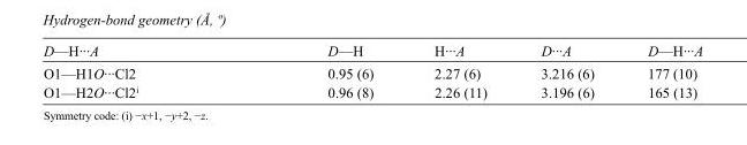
<table><tbody><tr><td>D—H···A</td><td>D—H</td><td>H···A</td><td>D···A</td><td>D—H···A</td></tr><tr><td>O1—H1O···Cl2</td><td>0.95 (6)</td><td>2.27 (6)</td><td>3.216 (6)</td><td>177 (10)</td></tr><tr><td>O1—H2O···Cl2<sup>i</sup></td><td>0.96 (8)</td><td>2.26 (11)</td><td>3.196 (6)</td><td>165 (13)</td></tr></tbody></table>